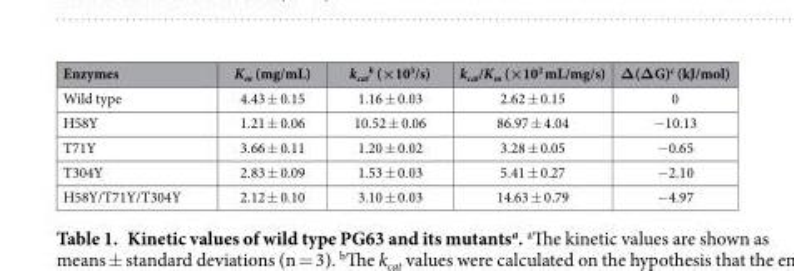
<table><thead><tr><td>Enzymes</td><td>K<sub>m</sub> (mg/mL)</td><td>k<sub>cat</sub> <sup>b</sup> (×10<sup>3</sup>/s)</td><td>k<sub>cat</sub>/K<sub>m</sub> (×10<sup>2</sup> mL/mg/s)</td><td>Δ(ΔG)<sup>c</sup> (kJ/mol)</td></tr></thead><tbody><tr><td>Wild type</td><td>4.43 ± 0.15</td><td>1.16 ± 0.03</td><td>2.62 ± 0.15</td><td>0</td></tr><tr><td>H58Y</td><td>1.21 ± 0.06</td><td>10.52 ± 0.06</td><td>86.97 ± 4.04</td><td>− 10.13</td></tr><tr><td>T71Y</td><td>3.66 ± 0.11</td><td>1.20 ± 0.02</td><td>3.28 ± 0.05</td><td>− 0.65</td></tr><tr><td>T304Y</td><td>2.83 ± 0.09</td><td>1.53 ± 0.03</td><td>5.41 ± 0.27</td><td>− 2.10</td></tr><tr><td>H58Y/T71Y/T304Y</td><td>2.12 ± 0.10</td><td>3.10 ± 0.03</td><td>14.63 ± 0.79</td><td>− 4.97</td></tr></tbody></table>